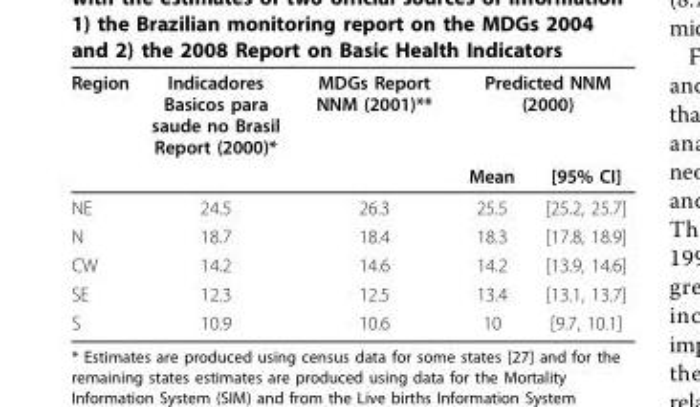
<table><thead><tr><td rowspan="2">Region</td><td rowspan="2">Indicadores Basicos para saude no Brasil Report (2000)*</td><td rowspan="2">MDGs Report NNM (2001)**</td><td colspan="2">Predicted NNM (2000)</td></tr><tr><td>Mean</td><td>[95% CI]</td></tr></thead><tbody><tr><td>NE</td><td>24.5</td><td>26.3</td><td>25.5</td><td>[25.2, 25.7]</td></tr><tr><td>N</td><td>18.7</td><td>18.4</td><td>18.3</td><td>[17.8, 18.9]</td></tr><tr><td>CW</td><td>14.2</td><td>14.6</td><td>14.2</td><td>[13.9, 14.6]</td></tr><tr><td>SE</td><td>12.3</td><td>12.5</td><td>13.4</td><td>[13.1, 13.7]</td></tr><tr><td>S</td><td>10.9</td><td>10.6</td><td>10</td><td>[9.7, 10.1]</td></tr></tbody></table>